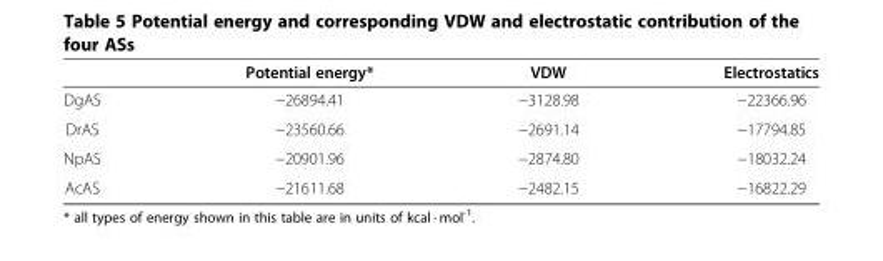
<table><thead><tr><td></td><td>Potential energy*</td><td>VDW</td><td>Electrostatics</td></tr></thead><tbody><tr><td>DgAS</td><td>−26894.41</td><td>−3128.98</td><td>−22366.96</td></tr><tr><td>DrAS</td><td>−23560.66</td><td>−2691.14</td><td>−17794.85</td></tr><tr><td>NpAS</td><td>−20901.96</td><td>−2874.80</td><td>−18032.24</td></tr><tr><td>AcAS</td><td>−21611.68</td><td>−2482.15</td><td>−16822.29</td></tr></tbody></table>